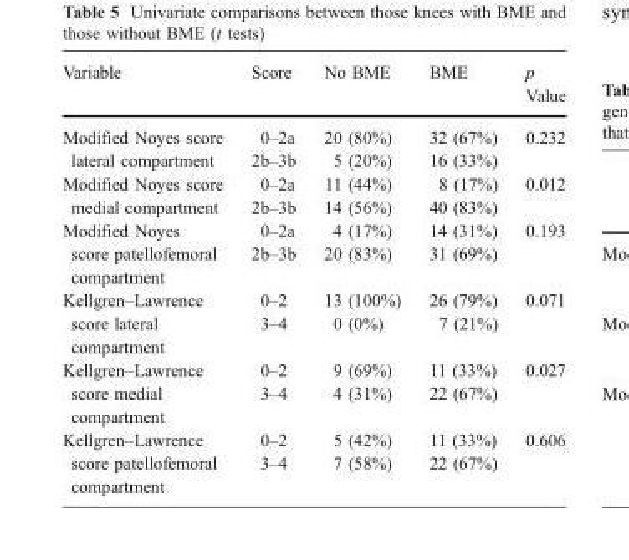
<table><thead><tr><td>Variable</td><td>Score</td><td>No BME</td><td>BME</td><td>p Value</td></tr></thead><tbody><tr><td rowspan="2">Modified Noyes score lateral compartment</td><td>0–2a</td><td>20 (80%)</td><td>32 (67%)</td><td rowspan="2">0.232</td></tr><tr><td>2b–3b</td><td>5 (20%)</td><td>16 (33%)</td></tr><tr><td rowspan="2">Modified Noyes score medial compartment</td><td>0–2a</td><td>11 (44%)</td><td>8 (17%)</td><td rowspan="2">0.012</td></tr><tr><td>2b–3b</td><td>14 (56%)</td><td>40 (83%)</td></tr><tr><td rowspan="2">Modified Noyes score patellofemoral compartment</td><td>0–2a</td><td>4 (17%)</td><td>14 (31%)</td><td rowspan="2">0.193</td></tr><tr><td>2b–3b</td><td>20 (83%)</td><td>31 (69%)</td></tr><tr><td rowspan="2">Kellgren–Lawrence score lateral compartment</td><td>0–2</td><td>13 (100%)</td><td>26 (79%)</td><td rowspan="2">0.071</td></tr><tr><td>3–4</td><td>0 (0%)</td><td>7 (21%)</td></tr><tr><td rowspan="2">Kellgren–Lawrence score medial compartment</td><td>0–2</td><td>9 (69%)</td><td>11 (33%)</td><td rowspan="2">0.027</td></tr><tr><td>3–4</td><td>4 (31%)</td><td>22 (67%)</td></tr><tr><td rowspan="2">Kellgren–Lawrence score patellofemoral compartment</td><td>0–2</td><td>5 (42%)</td><td>11 (33%)</td><td rowspan="2">0.606</td></tr><tr><td>3–4</td><td>7 (58%)</td><td>22 (67%)</td></tr></tbody></table>